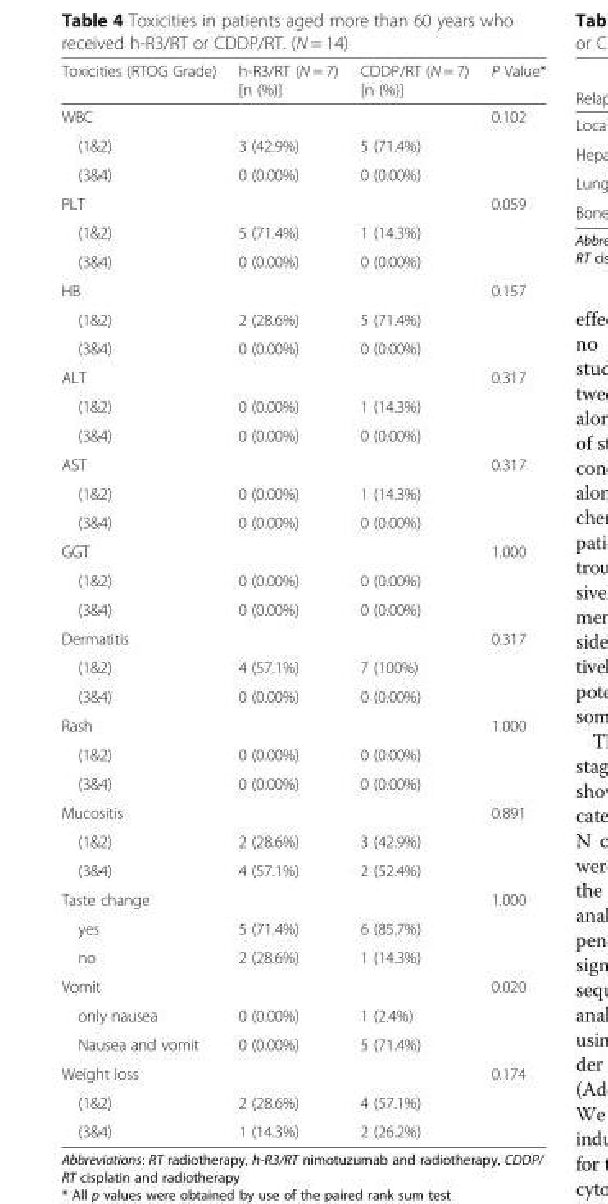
<table><thead><tr><td>Toxicities (RTOG Grade)</td><td>h-R3/RT (N = 7) [n (%)]</td><td>CDDP/RT (N = 7) [n (%)]</td><td>P Value*</td></tr></thead><tbody><tr><td>WBC</td><td></td><td></td><td>0.102</td></tr><tr><td>(1&amp;2)</td><td>3 (42.9%)</td><td>5 (71.4%)</td><td></td></tr><tr><td>(3&amp;4)</td><td>0 (0.00%)</td><td>0 (0.00%)</td><td></td></tr><tr><td>PLT</td><td></td><td></td><td>0.059</td></tr><tr><td>(1&amp;2)</td><td>5 (71.4%)</td><td>1 (14.3%)</td><td></td></tr><tr><td>(3&amp;4)</td><td>0 (0.00%)</td><td>0 (0.00%)</td><td></td></tr><tr><td>HB</td><td></td><td></td><td>0.157</td></tr><tr><td>(1&amp;2)</td><td>2 (28.6%)</td><td>5 (71.4%)</td><td></td></tr><tr><td>(3&amp;4)</td><td>0 (0.00%)</td><td>0 (0.00%)</td><td></td></tr><tr><td>ALT</td><td></td><td></td><td>0.317</td></tr><tr><td>(1&amp;2)</td><td>0 (0.00%)</td><td>1 (14.3%)</td><td></td></tr><tr><td>(3&amp;4)</td><td>0 (0.00%)</td><td>0 (0.00%)</td><td></td></tr><tr><td>AST</td><td></td><td></td><td>0.317</td></tr><tr><td>(1&amp;2)</td><td>0 (0.00%)</td><td>1 (14.3%)</td><td></td></tr><tr><td>(3&amp;4)</td><td>0 (0.00%)</td><td>0 (0.00%)</td><td></td></tr><tr><td>GGT</td><td></td><td></td><td>1.000</td></tr><tr><td>(1&amp;2)</td><td>0 (0.00%)</td><td>0 (0.00%)</td><td></td></tr><tr><td>(3&amp;4)</td><td>0 (0.00%)</td><td>0 (0.00%)</td><td></td></tr><tr><td>Dermatitis</td><td></td><td></td><td>0.317</td></tr><tr><td>(1&amp;2)</td><td>4 (57.1%)</td><td>7 (100%)</td><td></td></tr><tr><td>(3&amp;4)</td><td>0 (0.00%)</td><td>0 (0.00%)</td><td></td></tr><tr><td>Rash</td><td></td><td></td><td>1.000</td></tr><tr><td>(1&amp;2)</td><td>0 (0.00%)</td><td>0 (0.00%)</td><td></td></tr><tr><td>(3&amp;4)</td><td>0 (0.00%)</td><td>0 (0.00%)</td><td></td></tr><tr><td>Mucositis</td><td></td><td></td><td>0.891</td></tr><tr><td>(1&amp;2)</td><td>2 (28.6%)</td><td>3 (42.9%)</td><td></td></tr><tr><td>(3&amp;4)</td><td>4 (57.1%)</td><td>2 (52.4%)</td><td></td></tr><tr><td>Taste change</td><td></td><td></td><td>1.000</td></tr><tr><td>yes</td><td>5 (71.4%)</td><td>6 (85.7%)</td><td></td></tr><tr><td>no</td><td>2 (28.6%)</td><td>1 (14.3%)</td><td></td></tr><tr><td>Vomit</td><td></td><td></td><td>0.020</td></tr><tr><td>only nausea</td><td>0 (0.00%)</td><td>1 (2.4%)</td><td></td></tr><tr><td>Nausea and vomit</td><td>0 (0.00%)</td><td>5 (71.4%)</td><td></td></tr><tr><td>Weight loss</td><td></td><td></td><td>0.174</td></tr><tr><td>(1&amp;2)</td><td>2 (28.6%)</td><td>4 (57.1%)</td><td></td></tr><tr><td>(3&amp;4)</td><td>1 (14.3%)</td><td>2 (26.2%)</td><td></td></tr></tbody></table>